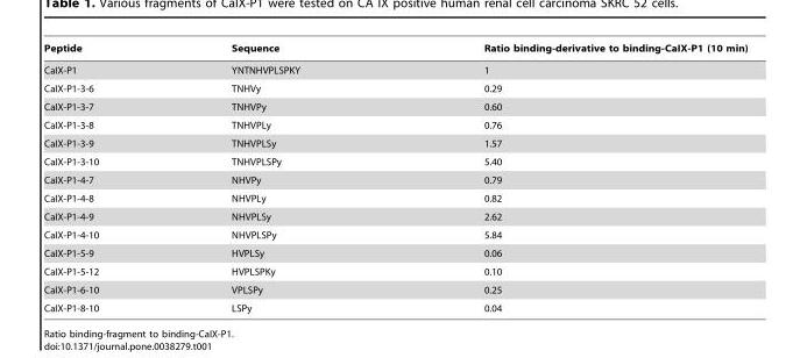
<table><thead><tr><td>Peptide</td><td>Sequence</td><td>Ratio binding-derivative to binding-CaIX-P1 (10 min)</td></tr></thead><tbody><tr><td>CaIX-P1</td><td>YNTNHVPLSPKY</td><td>1</td></tr><tr><td>CaIX-P1-3-6</td><td>TNHVy</td><td>0.29</td></tr><tr><td>CaIX-P1-3-7</td><td>TNHVPy</td><td>0.60</td></tr><tr><td>CaIX-P1-3-8</td><td>TNHVPLy</td><td>0.76</td></tr><tr><td>CaIX-P1-3-9</td><td>TNHVPLSy</td><td>1.57</td></tr><tr><td>CaIX-P1-3-10</td><td>TNHVPLSPy</td><td>5.40</td></tr><tr><td>CaIX-P1-4-7</td><td>NHVPy</td><td>0.79</td></tr><tr><td>CaIX-P1-4-8</td><td>NHVPLy</td><td>0.82</td></tr><tr><td>CaIX-P1-4-9</td><td>NHVPLSy</td><td>2.62</td></tr><tr><td>CaIX-P1-4-10</td><td>NHVPLSPy</td><td>5.84</td></tr><tr><td>CaIX-P1-5-9</td><td>HVPLSy</td><td>0.06</td></tr><tr><td>CaIX-P1-5-12</td><td>HVPLSPKy</td><td>0.10</td></tr><tr><td>CaIX-P1-6-10</td><td>VPLSPy</td><td>0.25</td></tr><tr><td>CaIX-P1-8-10</td><td>LSPy</td><td>0.04</td></tr></tbody></table>